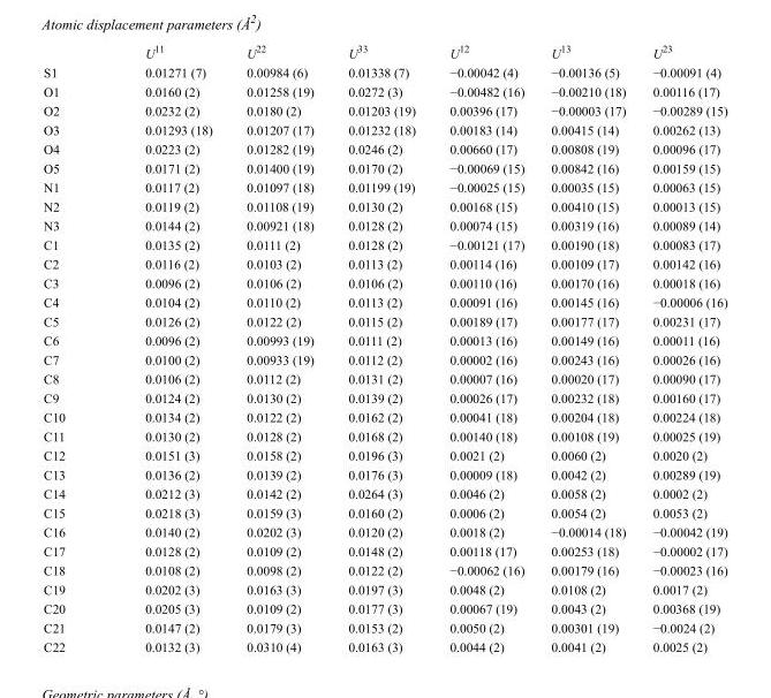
<table><thead><tr><td></td><td>U<sup>11</sup></td><td>U<sup>22</sup></td><td>U<sup>33</sup></td><td>U<sup>12</sup></td><td>U<sup>13</sup></td><td>U<sup>23</sup></td></tr></thead><tbody><tr><td>S1</td><td>0.01271 (7)</td><td>0.00984 (6)</td><td>0.01338 (7)</td><td>−0.00042 (4)</td><td>−0.00136 (5)</td><td>−0.00091 (4)</td></tr><tr><td>O1</td><td>0.0160 (2)</td><td>0.01258 (19)</td><td>0.0272 (3)</td><td>−0.00482 (16)</td><td>−0.00210 (18)</td><td>0.00116 (17)</td></tr><tr><td>O2</td><td>0.0232 (2)</td><td>0.0180 (2)</td><td>0.01203 (19)</td><td>0.00396 (17)</td><td>−0.00003 (17)</td><td>−0.00289 (15)</td></tr><tr><td>O3</td><td>0.01293 (18)</td><td>0.01207 (17)</td><td>0.01232 (18)</td><td>0.00183 (14)</td><td>0.00415 (14)</td><td>0.00262 (13)</td></tr><tr><td>O4</td><td>0.0223 (2)</td><td>0.01282 (19)</td><td>0.0246 (2)</td><td>0.00660 (17)</td><td>0.00808 (19)</td><td>0.00096 (17)</td></tr><tr><td>O5</td><td>0.0171 (2)</td><td>0.01400 (19)</td><td>0.0170 (2)</td><td>−0.00069 (15)</td><td>0.00842 (16)</td><td>0.00159 (15)</td></tr><tr><td>N1</td><td>0.0117 (2)</td><td>0.01097 (18)</td><td>0.01199 (19)</td><td>−0.00025 (15)</td><td>0.00035 (15)</td><td>0.00063 (15)</td></tr><tr><td>N2</td><td>0.0119 (2)</td><td>0.01108 (19)</td><td>0.0130 (2)</td><td>0.00168 (15)</td><td>0.00410 (15)</td><td>0.00013 (15)</td></tr><tr><td>N3</td><td>0.0144 (2)</td><td>0.00921 (18)</td><td>0.0128 (2)</td><td>0.00074 (15)</td><td>0.00319 (16)</td><td>0.00089 (14)</td></tr><tr><td>C1</td><td>0.0135 (2)</td><td>0.0111 (2)</td><td>0.0128 (2)</td><td>−0.00121 (17)</td><td>0.00190 (18)</td><td>0.00083 (17)</td></tr><tr><td>C2</td><td>0.0116 (2)</td><td>0.0103 (2)</td><td>0.0113 (2)</td><td>0.00114 (16)</td><td>0.00109 (17)</td><td>0.00142 (16)</td></tr><tr><td>C3</td><td>0.0096 (2)</td><td>0.0106 (2)</td><td>0.0106 (2)</td><td>0.00110 (16)</td><td>0.00170 (16)</td><td>0.00018 (16)</td></tr><tr><td>C4</td><td>0.0104 (2)</td><td>0.0110 (2)</td><td>0.0113 (2)</td><td>0.00091 (16)</td><td>0.00145 (16)</td><td>−0.00006 (16)</td></tr><tr><td>C5</td><td>0.0126 (2)</td><td>0.0122 (2)</td><td>0.0115 (2)</td><td>0.00189 (17)</td><td>0.00177 (17)</td><td>0.00231 (17)</td></tr><tr><td>C6</td><td>0.0096 (2)</td><td>0.00993 (19)</td><td>0.0111 (2)</td><td>0.00013 (16)</td><td>0.00149 (16)</td><td>0.00011 (16)</td></tr><tr><td>C7</td><td>0.0100 (2)</td><td>0.00933 (19)</td><td>0.0112 (2)</td><td>0.00002 (16)</td><td>0.00243 (16)</td><td>0.00026 (16)</td></tr><tr><td>C8</td><td>0.0106 (2)</td><td>0.0112 (2)</td><td>0.0131 (2)</td><td>0.00007 (16)</td><td>0.00020 (17)</td><td>0.00090 (17)</td></tr><tr><td>C9</td><td>0.0124 (2)</td><td>0.0130 (2)</td><td>0.0139 (2)</td><td>0.00026 (17)</td><td>0.00232 (18)</td><td>0.00160 (17)</td></tr><tr><td>C10</td><td>0.0134 (2)</td><td>0.0122 (2)</td><td>0.0162 (2)</td><td>0.00041 (18)</td><td>0.00204 (18)</td><td>0.00224 (18)</td></tr><tr><td>C11</td><td>0.0130 (2)</td><td>0.0128 (2)</td><td>0.0168 (2)</td><td>0.00140 (18)</td><td>0.00108 (19)</td><td>0.00025 (19)</td></tr><tr><td>C12</td><td>0.0151 (3)</td><td>0.0158 (2)</td><td>0.0196 (3)</td><td>0.0021 (2)</td><td>0.0060 (2)</td><td>0.0020 (2)</td></tr><tr><td>C13</td><td>0.0136 (2)</td><td>0.0139 (2)</td><td>0.0176 (3)</td><td>0.00009 (18)</td><td>0.0042 (2)</td><td>0.00289 (19)</td></tr><tr><td>C14</td><td>0.0212 (3)</td><td>0.0142 (2)</td><td>0.0264 (3)</td><td>0.0046 (2)</td><td>0.0058 (2)</td><td>0.0002 (2)</td></tr><tr><td>C15</td><td>0.0218 (3)</td><td>0.0159 (3)</td><td>0.0160 (2)</td><td>0.0006 (2)</td><td>0.0054 (2)</td><td>0.0053 (2)</td></tr><tr><td>C16</td><td>0.0140 (2)</td><td>0.0202 (3)</td><td>0.0120 (2)</td><td>0.0018 (2)</td><td>−0.00014 (18)</td><td>−0.00042 (19)</td></tr><tr><td>C17</td><td>0.0128 (2)</td><td>0.0109 (2)</td><td>0.0148 (2)</td><td>0.00118 (17)</td><td>0.00253 (18)</td><td>−0.00002 (17)</td></tr><tr><td>C18</td><td>0.0108 (2)</td><td>0.0098 (2)</td><td>0.0122 (2)</td><td>−0.00062 (16)</td><td>0.00179 (16)</td><td>−0.00023 (16)</td></tr><tr><td>C19</td><td>0.0202 (3)</td><td>0.0163 (3)</td><td>0.0197 (3)</td><td>0.0048 (2)</td><td>0.0108 (2)</td><td>0.0017 (2)</td></tr><tr><td>C20</td><td>0.0205 (3)</td><td>0.0109 (2)</td><td>0.0177 (3)</td><td>0.00067 (19)</td><td>0.0043 (2)</td><td>0.00368 (19)</td></tr><tr><td>C21</td><td>0.0147 (2)</td><td>0.0179 (3)</td><td>0.0153 (2)</td><td>0.0050 (2)</td><td>0.00301 (19)</td><td>−0.0024 (2)</td></tr><tr><td>C22</td><td>0.0132 (3)</td><td>0.0310 (4)</td><td>0.0163 (3)</td><td>0.0044 (2)</td><td>0.0041 (2)</td><td>0.0025 (2)</td></tr></tbody></table>